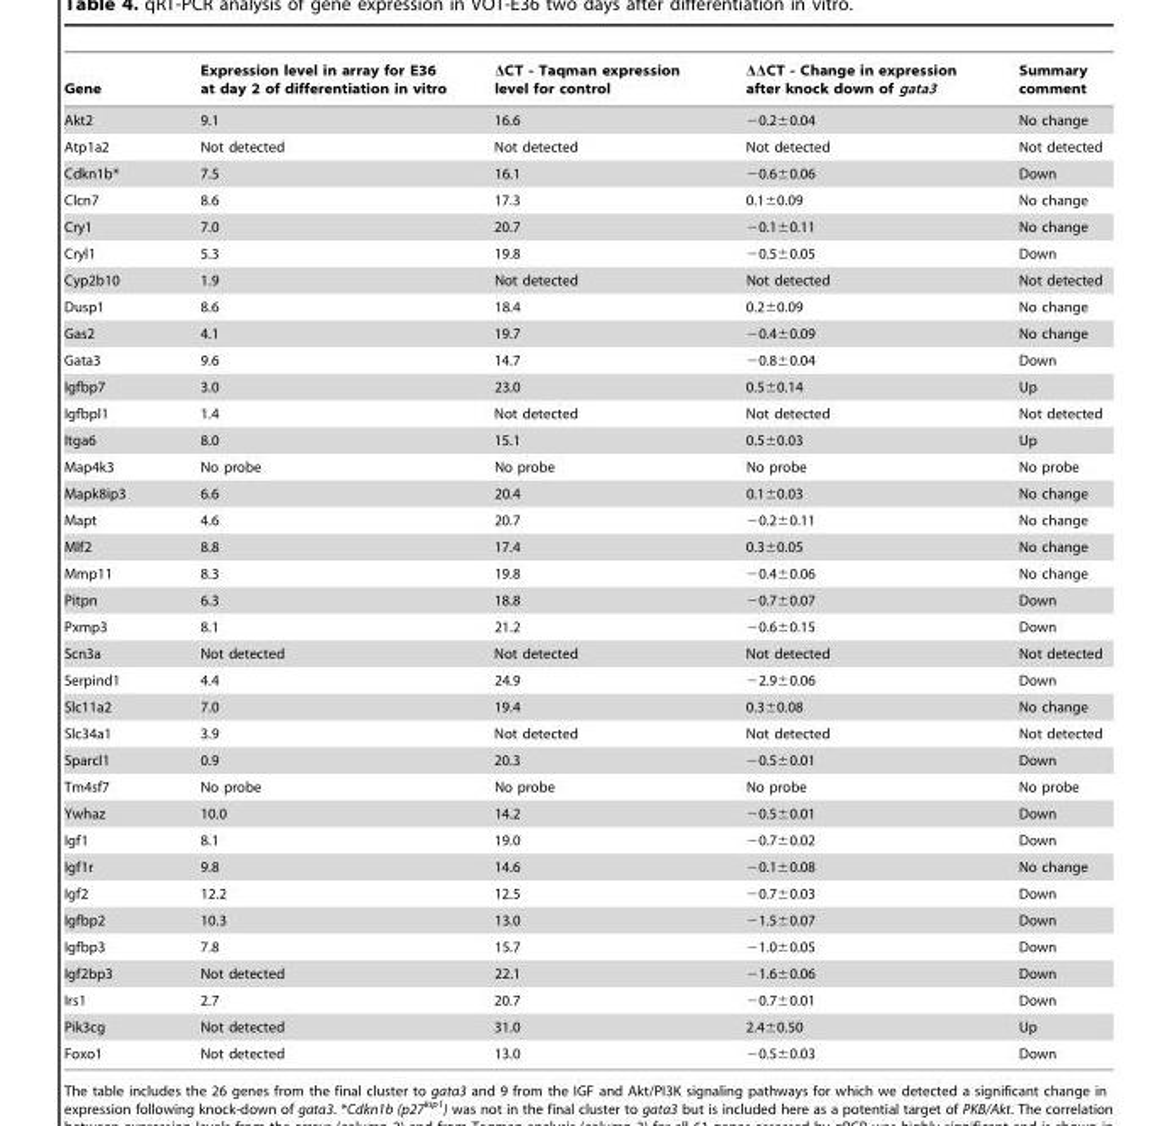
<table><thead><tr><td>Gene</td><td>Expression level in array for E36 at day 2 of differentiation in vitro</td><td>ΔCT - Taqman expression level for control</td><td>ΔΔCT - Change in expression after knock down of gata3</td><td>Summary comment</td></tr></thead><tbody><tr><td>Akt2</td><td>9.1</td><td>16.6</td><td>−0.2±0.04</td><td>No change</td></tr><tr><td>Atp1a2</td><td>Not detected</td><td>Not detected</td><td>Not detected</td><td>Not detected</td></tr><tr><td>Cdkn1b*</td><td>7.5</td><td>16.1</td><td>−0.6±0.06</td><td>Down</td></tr><tr><td>Clcn7</td><td>8.6</td><td>17.3</td><td>0.1±0.09</td><td>No change</td></tr><tr><td>Cry1</td><td>7.0</td><td>20.7</td><td>−0.1±0.11</td><td>No change</td></tr><tr><td>Cryl1</td><td>5.3</td><td>19.8</td><td>−0.5±0.05</td><td>Down</td></tr><tr><td>Cyp2b10</td><td>1.9</td><td>Not detected</td><td>Not detected</td><td>Not detected</td></tr><tr><td>Dusp1</td><td>8.6</td><td>18.4</td><td>0.2±0.09</td><td>No change</td></tr><tr><td>Gas2</td><td>4.1</td><td>19.7</td><td>−0.4±0.09</td><td>No change</td></tr><tr><td>Gata3</td><td>9.6</td><td>14.7</td><td>−0.8±0.04</td><td>Down</td></tr><tr><td>Igfbp7</td><td>3.0</td><td>23.0</td><td>0.5±0.14</td><td>Up</td></tr><tr><td>Igfbpl1</td><td>1.4</td><td>Not detected</td><td>Not detected</td><td>Not detected</td></tr><tr><td>Itga6</td><td>8.0</td><td>15.1</td><td>0.5±0.03</td><td>Up</td></tr><tr><td>Map4k3</td><td>No probe</td><td>No probe</td><td>No probe</td><td>No probe</td></tr><tr><td>Mapk8ip3</td><td>6.6</td><td>20.4</td><td>0.1±0.03</td><td>No change</td></tr><tr><td>Mapt</td><td>4.6</td><td>20.7</td><td>−0.2±0.11</td><td>No change</td></tr><tr><td>Mlf2</td><td>8.8</td><td>17.4</td><td>0.3±0.05</td><td>No change</td></tr><tr><td>Mmp11</td><td>8.3</td><td>19.8</td><td>−0.4±0.06</td><td>No change</td></tr><tr><td>Pitpn</td><td>6.3</td><td>18.8</td><td>−0.7±0.07</td><td>Down</td></tr><tr><td>Pxmp3</td><td>8.1</td><td>21.2</td><td>−0.6±0.15</td><td>Down</td></tr><tr><td>Scn3a</td><td>Not detected</td><td>Not detected</td><td>Not detected</td><td>Not detected</td></tr><tr><td>Serpind1</td><td>4.4</td><td>24.9</td><td>−2.9±0.06</td><td>Down</td></tr><tr><td>Slc11a2</td><td>7.0</td><td>19.4</td><td>0.3±0.08</td><td>No change</td></tr><tr><td>Slc34a1</td><td>3.9</td><td>Not detected</td><td>Not detected</td><td>Not detected</td></tr><tr><td>Sparcl1</td><td>0.9</td><td>20.3</td><td>−0.5±0.01</td><td>Down</td></tr><tr><td>Tm4sf7</td><td>No probe</td><td>No probe</td><td>No probe</td><td>No probe</td></tr><tr><td>Ywhaz</td><td>10.0</td><td>14.2</td><td>−0.5±0.01</td><td>Down</td></tr><tr><td>Igf1</td><td>8.1</td><td>19.0</td><td>−0.7±0.02</td><td>Down</td></tr><tr><td>Igf1r</td><td>9.8</td><td>14.6</td><td>−0.1±0.08</td><td>No change</td></tr><tr><td>Igf2</td><td>12.2</td><td>12.5</td><td>−0.7±0.03</td><td>Down</td></tr><tr><td>Igfbp2</td><td>10.3</td><td>13.0</td><td>−1.5±0.07</td><td>Down</td></tr><tr><td>Igfbp3</td><td>7.8</td><td>15.7</td><td>−1.0±0.05</td><td>Down</td></tr><tr><td>Igf2bp3</td><td>Not detected</td><td>22.1</td><td>−1.6±0.06</td><td>Down</td></tr><tr><td>Irs1</td><td>2.7</td><td>20.7</td><td>−0.7±0.01</td><td>Down</td></tr><tr><td>Pik3cg</td><td>Not detected</td><td>31.0</td><td>2.4±0.50</td><td>Up</td></tr><tr><td>Foxo1</td><td>Not detected</td><td>13.0</td><td>−0.5±0.03</td><td>Down</td></tr></tbody></table>